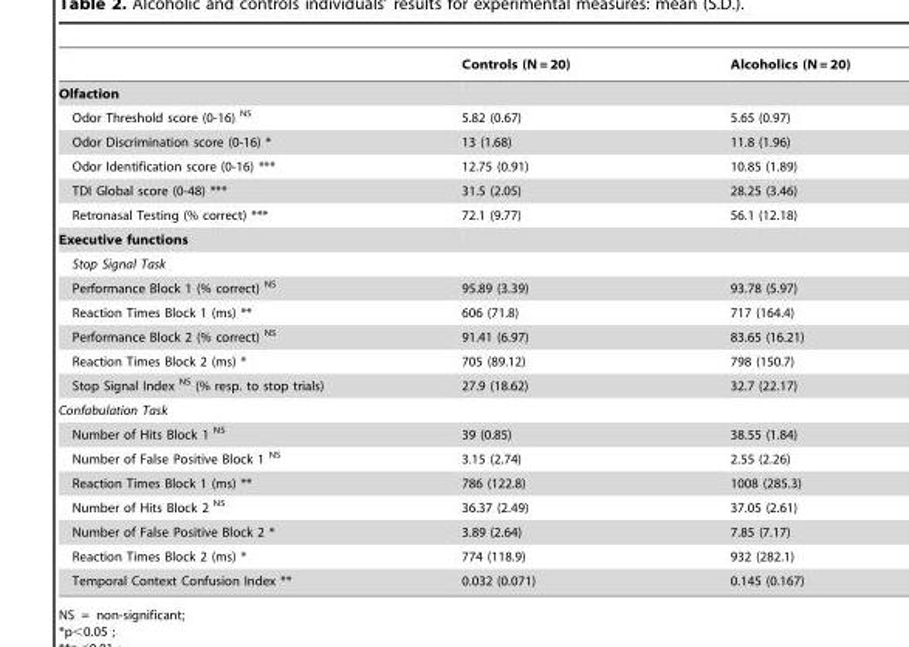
<table><thead><tr><td></td><td>Controls (N = 20)</td><td>Alcoholics (N = 20)</td></tr></thead><tbody><tr><td colspan="3">Olfaction</td></tr><tr><td>Odor Threshold score (0-16) <sup>NS</sup></td><td>5.82 (0.67)</td><td>5.65 (0.97)</td></tr><tr><td>Odor Discrimination score (0-16) *</td><td>13 (1.68)</td><td>11.8 (1.96)</td></tr><tr><td>Odor Identification score (0-16) ***</td><td>12.75 (0.91)</td><td>10.85 (1.89)</td></tr><tr><td>TDI Global score (0-48) ***</td><td>31.5 (2.05)</td><td>28.25 (3.46)</td></tr><tr><td>Retronasal Testing (% correct) ***</td><td>72.1 (9.77)</td><td>56.1 (12.18)</td></tr><tr><td colspan="3">Executive functions</td></tr><tr><td colspan="3">Stop Signal Task</td></tr><tr><td>Performance Block 1 (% correct) <sup>NS</sup></td><td>95.89 (3.39)</td><td>93.78 (5.97)</td></tr><tr><td>Reaction Times Block 1 (ms) **</td><td>606 (71.8)</td><td>717 (164.4)</td></tr><tr><td>Performance Block 2 (% correct) <sup>NS</sup></td><td>91.41 (6.97)</td><td>83.65 (16.21)</td></tr><tr><td>Reaction Times Block 2 (ms) *</td><td>705 (89.12)</td><td>798 (150.7)</td></tr><tr><td>Stop Signal Index <sup>NS</sup> (% resp. to stop trials)</td><td>27.9 (18.62)</td><td>32.7 (22.17)</td></tr><tr><td colspan="3">Confabulation Task</td></tr><tr><td>Number of Hits Block 1 <sup>NS</sup></td><td>39 (0.85)</td><td>38.55 (1.84)</td></tr><tr><td>Number of False Positive Block 1 <sup>NS</sup></td><td>3.15 (2.74)</td><td>2.55 (2.26)</td></tr><tr><td>Reaction Times Block 1 (ms) **</td><td>786 (122.8)</td><td>1008 (285.3)</td></tr><tr><td>Number of Hits Block 2 <sup>NS</sup></td><td>36.37 (2.49)</td><td>37.05 (2.61)</td></tr><tr><td>Number of False Positive Block 2 *</td><td>3.89 (2.64)</td><td>7.85 (7.17)</td></tr><tr><td>Reaction Times Block 2 (ms) *</td><td>774 (118.9)</td><td>932 (282.1)</td></tr><tr><td>Temporal Context Confusion Index **</td><td>0.032 (0.071)</td><td>0.145 (0.167)</td></tr></tbody></table>